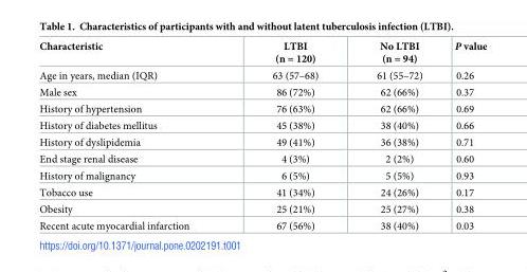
<table><thead><tr><td>Characteristic</td><td>LTBI (n = 120)</td><td>No LTBI (n = 94)</td><td>P value</td></tr></thead><tbody><tr><td>Age in years, median (IQR)</td><td>63 (57–68)</td><td>61 (55–72)</td><td>0.26</td></tr><tr><td>Male sex</td><td>86 (72%)</td><td>62 (66%)</td><td>0.37</td></tr><tr><td>History of hypertension</td><td>76 (63%)</td><td>62 (66%)</td><td>0.69</td></tr><tr><td>History of diabetes mellitus</td><td>45 (38%)</td><td>38 (40%)</td><td>0.66</td></tr><tr><td>History of dyslipidemia</td><td>49 (41%)</td><td>36 (38%)</td><td>0.71</td></tr><tr><td>End stage renal disease</td><td>4 (3%)</td><td>2 (2%)</td><td>0.60</td></tr><tr><td>History of malignancy</td><td>6 (5%)</td><td>5 (5%)</td><td>0.93</td></tr><tr><td>Tobacco use</td><td>41 (34%)</td><td>24 (26%)</td><td>0.17</td></tr><tr><td>Obesity</td><td>25 (21%)</td><td>25 (27%)</td><td>0.38</td></tr><tr><td>Recent acute myocardial infarction</td><td>67 (56%)</td><td>38 (40%)</td><td>0.03</td></tr></tbody></table>